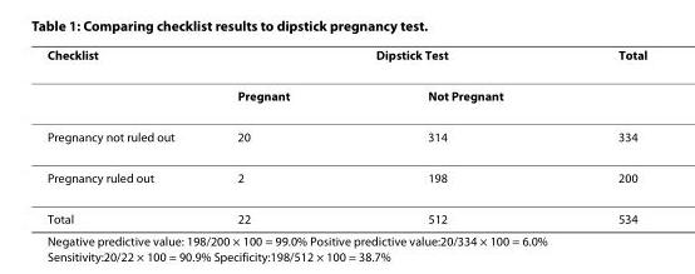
<table><thead><tr><td rowspan="2">Checklist</td><td colspan="2">Dipstick Test</td><td rowspan="2">Total</td></tr><tr><td>Pregnant</td><td>Not Pregnant</td></tr></thead><tbody><tr><td>Pregnancy not ruled out</td><td>20</td><td>314</td><td>334</td></tr><tr><td>Pregnancy ruled out</td><td>2</td><td>198</td><td>200</td></tr><tr><td>Total</td><td>22</td><td>512</td><td>534</td></tr></tbody></table>